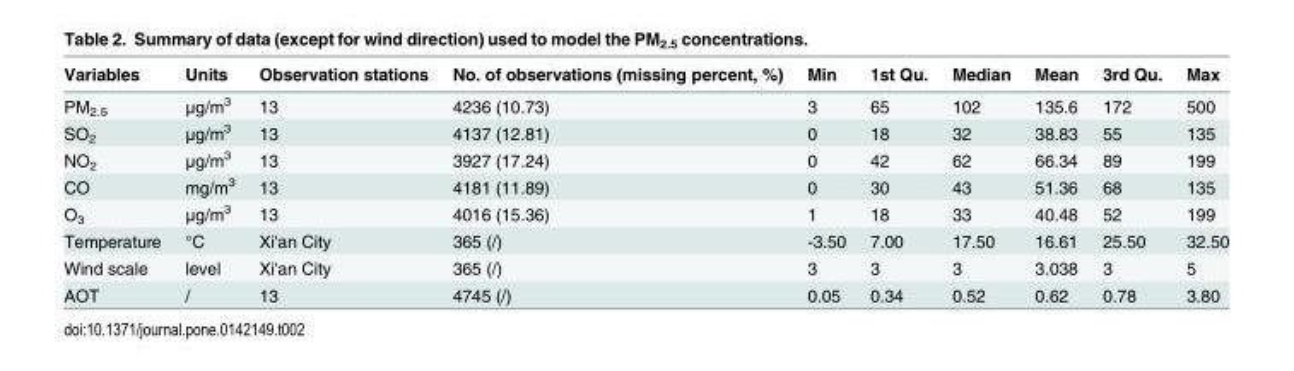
<table><thead><tr><td>Variables</td><td>Units</td><td>Observation stations</td><td>No. of observations (missing percent, %)</td><td>Min</td><td>1st Qu.</td><td>Median</td><td>Mean</td><td>3rd Qu.</td><td>Max</td></tr></thead><tbody><tr><td>PM<sub>2.5</sub></td><td>μg/m<sup>3</sup></td><td>13</td><td>4236 (10.73)</td><td>3</td><td>65</td><td>102</td><td>135.6</td><td>172</td><td>500</td></tr><tr><td>SO<sub>2</sub></td><td>μg/m<sup>3</sup></td><td>13</td><td>4137 (12.81)</td><td>0</td><td>18</td><td>32</td><td>38.83</td><td>55</td><td>135</td></tr><tr><td>NO<sub>2</sub></td><td>μg/m<sup>3</sup></td><td>13</td><td>3927 (17.24)</td><td>0</td><td>42</td><td>62</td><td>66.34</td><td>89</td><td>199</td></tr><tr><td>CO</td><td>mg/m<sup>3</sup></td><td>13</td><td>4181 (11.89)</td><td>0</td><td>30</td><td>43</td><td>51.36</td><td>68</td><td>135</td></tr><tr><td>O<sub>3</sub></td><td>μg/m<sup>3</sup></td><td>13</td><td>4016 (15.36)</td><td>1</td><td>18</td><td>33</td><td>40.48</td><td>52</td><td>199</td></tr><tr><td>Temperature</td><td>°C</td><td>Xi&#x27;an City</td><td>365 (/)</td><td>-3.50</td><td>7.00</td><td>17.50</td><td>16.61</td><td>25.50</td><td>32.50</td></tr><tr><td>Wind scale</td><td>level</td><td>Xi&#x27;an City</td><td>365 (/)</td><td>3</td><td>3</td><td>3</td><td>3.038</td><td>3</td><td>5</td></tr><tr><td>AOT</td><td>/</td><td>13</td><td>4745 (/)</td><td>0.05</td><td>0.34</td><td>0.52</td><td>0.62</td><td>0.78</td><td>3.80</td></tr></tbody></table>